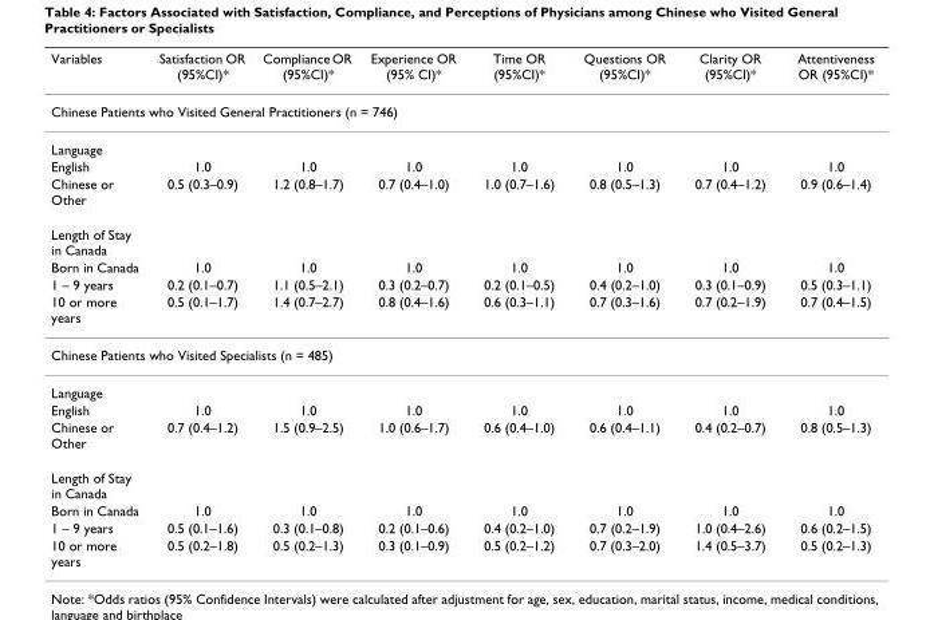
<table><thead><tr><td>Variables</td><td>Satisfaction OR (95%CI)*</td><td>Compliance OR (95%CI)*</td><td>Experience OR (95% CI)*</td><td>Time OR (95%CI)*</td><td>Questions OR (95%CI)*</td><td>Clarity OR (95%CI)*</td><td>Attentiveness OR (95%CI)*</td></tr></thead><tbody><tr><td colspan="8">Chinese Patients who Visited General Practitioners (n = 746)</td></tr><tr><td colspan="8">Language</td></tr><tr><td>English</td><td>1.0</td><td>1.0</td><td>1.0</td><td>1.0</td><td>1.0</td><td>1.0</td><td>1.0</td></tr><tr><td>Chinese or Other</td><td>0.5 (0.3–0.9)</td><td>1.2 (0.8–1.7)</td><td>0.7 (0.4–1.0)</td><td>1.0 (0.7–1.6)</td><td>0.8 (0.5–1.3)</td><td>0.7 (0.4–1.2)</td><td>0.9 (0.6–1.4)</td></tr><tr><td colspan="8">Length of Stay in Canada</td></tr><tr><td>Born in Canada</td><td>1.0</td><td>1.0</td><td>1.0</td><td>1.0</td><td>1.0</td><td>1.0</td><td>1.0</td></tr><tr><td>1 – 9 years</td><td>0.2 (0.1–0.7)</td><td>1.1 (0.5–2.1)</td><td>0.3 (0.2–0.7)</td><td>0.2 (0.1–0.5)</td><td>0.4 (0.2–1.0)</td><td>0.3 (0.1–0.9)</td><td>0.5 (0.3–1.1)</td></tr><tr><td>10 or more years</td><td>0.5 (0.1–1.7)</td><td>1.4 (0.7–2.7)</td><td>0.8 (0.4–1.6)</td><td>0.6 (0.3–1.1)</td><td>0.7 (0.3–1.6)</td><td>0.7 (0.2–1.9)</td><td>0.7 (0.4–1.5)</td></tr><tr><td colspan="8">Chinese Patients who Visited Specialists (n = 485)</td></tr><tr><td colspan="8">Language</td></tr><tr><td>English</td><td>1.0</td><td>1.0</td><td>1.0</td><td>1.0</td><td>1.0</td><td>1.0</td><td>1.0</td></tr><tr><td>Chinese or Other</td><td>0.7 (0.4–1.2)</td><td>1.5 (0.9–2.5)</td><td>1.0 (0.6–1.7)</td><td>0.6 (0.4–1.0)</td><td>0.6 (0.4–1.1)</td><td>0.4 (0.2–0.7)</td><td>0.8 (0.5–1.3)</td></tr><tr><td colspan="8">Length of Stay in Canada</td></tr><tr><td>Born in Canada</td><td>1.0</td><td>1.0</td><td>1.0</td><td>1.0</td><td>1.0</td><td>1.0</td><td>1.0</td></tr><tr><td>1 – 9 years</td><td>0.5 (0.1–1.6)</td><td>0.3 (0.1–0.8)</td><td>0.2 (0.1–0.6)</td><td>0.4 (0.2–1.0)</td><td>0.7 (0.2–1.9)</td><td>1.0 (0.4–2.6)</td><td>0.6 (0.2–1.5)</td></tr><tr><td>10 or more years</td><td>0.5 (0.2–1.8)</td><td>0.5 (0.2–1.3)</td><td>0.3 (0.1–0.9)</td><td>0.5 (0.2–1.2)</td><td>0.7 (0.3–2.0)</td><td>1.4 (0.5–3.7)</td><td>0.5 (0.2–1.3)</td></tr></tbody></table>